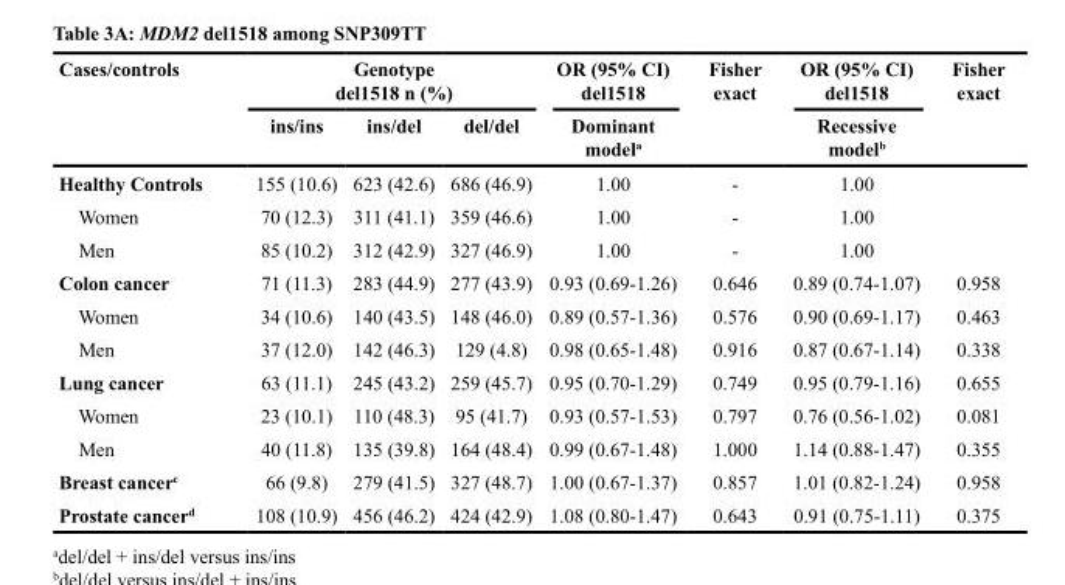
<table><thead><tr><td rowspan="2">Cases/controls</td><td colspan="3">Genotype del1518 n (%)</td><td rowspan="2">OR (95% CI) del1518 Dominant model<sup>a</sup></td><td rowspan="2">Fisher exact</td><td rowspan="2">OR (95% CI) del1518 Recessive model<sup>b</sup></td><td rowspan="2">Fisher exact</td></tr><tr><td>ins/ins</td><td>ins/del</td><td>del/del</td></tr></thead><tbody><tr><td>Healthy Controls</td><td>155 (10.6)</td><td>623 (42.6)</td><td>686 (46.9)</td><td>1.00</td><td>-</td><td>1.00</td><td></td></tr><tr><td>Women</td><td>70 (12.3)</td><td>311 (41.1)</td><td>359 (46.6)</td><td>1.00</td><td>-</td><td>1.00</td><td></td></tr><tr><td>Men</td><td>85 (10.2)</td><td>312 (42.9)</td><td>327 (46.9)</td><td>1.00</td><td>-</td><td>1.00</td><td></td></tr><tr><td>Colon cancer</td><td>71 (11.3)</td><td>283 (44.9)</td><td>277 (43.9)</td><td>0.93 (0.69-1.26)</td><td>0.646</td><td>0.89 (0.74-1.07)</td><td>0.958</td></tr><tr><td>Women</td><td>34 (10.6)</td><td>140 (43.5)</td><td>148 (46.0)</td><td>0.89 (0.57-1.36)</td><td>0.576</td><td>0.90 (0.69-1.17)</td><td>0.463</td></tr><tr><td>Men</td><td>37 (12.0)</td><td>142 (46.3)</td><td>129 (4.8)</td><td>0.98 (0.65-1.48)</td><td>0.916</td><td>0.87 (0.67-1.14)</td><td>0.338</td></tr><tr><td>Lung cancer</td><td>63 (11.1)</td><td>245 (43.2)</td><td>259 (45.7)</td><td>0.95 (0.70-1.29)</td><td>0.749</td><td>0.95 (0.79-1.16)</td><td>0.655</td></tr><tr><td>Women</td><td>23 (10.1)</td><td>110 (48.3)</td><td>95 (41.7)</td><td>0.93 (0.57-1.53)</td><td>0.797</td><td>0.76 (0.56-1.02)</td><td>0.081</td></tr><tr><td>Men</td><td>40 (11.8)</td><td>135 (39.8)</td><td>164 (48.4)</td><td>0.99 (0.67-1.48)</td><td>1.000</td><td>1.14 (0.88-1.47)</td><td>0.355</td></tr><tr><td>Breast cancer<sup>c</sup></td><td>66 (9.8)</td><td>279 (41.5)</td><td>327 (48.7)</td><td>1.00 (0.67-1.37)</td><td>0.857</td><td>1.01 (0.82-1.24)</td><td>0.958</td></tr><tr><td>Prostate cancer<sup>d</sup></td><td>108 (10.9)</td><td>456 (46.2)</td><td>424 (42.9)</td><td>1.08 (0.80-1.47)</td><td>0.643</td><td>0.91 (0.75-1.11)</td><td>0.375</td></tr></tbody></table>